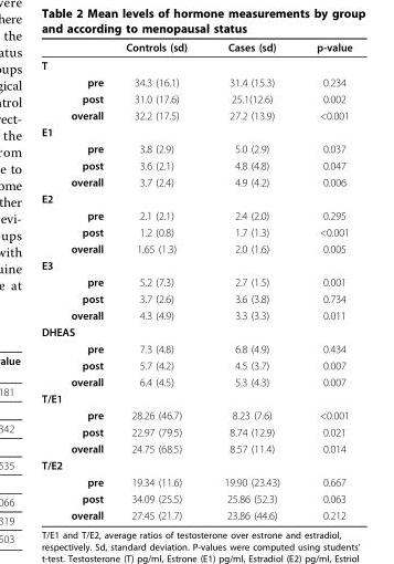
<table><thead><tr><td></td><td>Controls (sd)</td><td>Cases (sd)</td><td>p-value</td></tr></thead><tbody><tr><td colspan="4">T</td></tr><tr><td>pre</td><td>34.3 (16.1)</td><td>31.4 (15.3)</td><td>0.234</td></tr><tr><td>post</td><td>31.0 (17.6)</td><td>25.1(12.6)</td><td>0.002</td></tr><tr><td>overall</td><td>32.2 (17.5)</td><td>27.2 (13.9)</td><td>&lt;0.001</td></tr><tr><td colspan="4">E1</td></tr><tr><td>pre</td><td>3.8 (2.9)</td><td>5.0 (2.9)</td><td>0.037</td></tr><tr><td>post</td><td>3.6 (2.1)</td><td>4.8 (4.8)</td><td>0.047</td></tr><tr><td>overall</td><td>3.7 (2.4)</td><td>4.9 (4.2)</td><td>0.006</td></tr><tr><td colspan="4">E2</td></tr><tr><td>pre</td><td>2.1 (2.1)</td><td>2.4 (2.0)</td><td>0.295</td></tr><tr><td>post</td><td>1.2 (0.8)</td><td>1.7 (1.3)</td><td>&lt;0.001</td></tr><tr><td>overall</td><td>1.65 (1.3)</td><td>2.0 (1.6)</td><td>0.005</td></tr><tr><td colspan="4">E3</td></tr><tr><td>pre</td><td>5.2 (7.3)</td><td>2.7 (1.5)</td><td>0.001</td></tr><tr><td>post</td><td>3.7 (2.6)</td><td>3.6 (3.8)</td><td>0.734</td></tr><tr><td>overall</td><td>4.3 (4.9)</td><td>3.3 (3.3)</td><td>0.011</td></tr><tr><td colspan="4">DHEAS</td></tr><tr><td>pre</td><td>7.3 (4.8)</td><td>6.8 (4.9)</td><td>0.434</td></tr><tr><td>post</td><td>5.7 (4.2)</td><td>4.5 (3.7)</td><td>0.007</td></tr><tr><td>overall</td><td>6.4 (4.5)</td><td>5.3 (4.3)</td><td>0.007</td></tr><tr><td colspan="4">T/E1</td></tr><tr><td>pre</td><td>28.26 (46.7)</td><td>8.23 (7.6)</td><td>&lt;0.001</td></tr><tr><td>post</td><td>22.97 (79.5)</td><td>8.74 (12.9)</td><td>0.021</td></tr><tr><td>overall</td><td>24.75 (68.5)</td><td>8.57 (11.4)</td><td>0.014</td></tr><tr><td colspan="4">T/E2</td></tr><tr><td>pre</td><td>19.34 (11.6)</td><td>19.90 (23.43)</td><td>0.667</td></tr><tr><td>post</td><td>34.09 (25.5)</td><td>25.86 (52.3)</td><td>0.063</td></tr><tr><td>overall</td><td>27.45 (21.7)</td><td>23.86 (44.6)</td><td>0.212</td></tr></tbody></table>